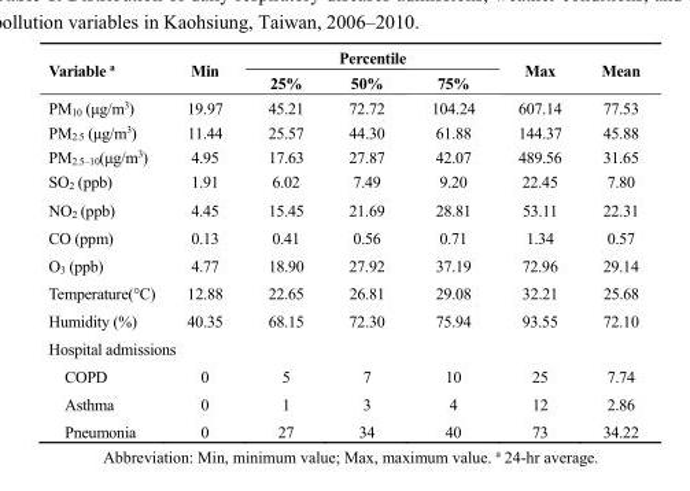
<table><thead><tr><td rowspan="2">Variable <sup>a</sup></td><td rowspan="2">Min</td><td colspan="3">Percentile</td><td rowspan="2">Max</td><td rowspan="2">Mean</td></tr><tr><td>25%</td><td>50%</td><td>75%</td></tr></thead><tbody><tr><td>PM<sub>10</sub> (μg/m<sup>3</sup>)</td><td>19.97</td><td>45.21</td><td>72.72</td><td>104.24</td><td>607.14</td><td>77.53</td></tr><tr><td>PM<sub>2.5</sub> (μg/m<sup>3</sup>)</td><td>11.44</td><td>25.57</td><td>44.30</td><td>61.88</td><td>144.37</td><td>45.88</td></tr><tr><td>PM<sub>2.5–10</sub>(μg/m<sup>3</sup>)</td><td>4.95</td><td>17.63</td><td>27.87</td><td>42.07</td><td>489.56</td><td>31.65</td></tr><tr><td>SO<sub>2</sub> (ppb)</td><td>1.91</td><td>6.02</td><td>7.49</td><td>9.20</td><td>22.45</td><td>7.80</td></tr><tr><td>NO<sub>2</sub> (ppb)</td><td>4.45</td><td>15.45</td><td>21.69</td><td>28.81</td><td>53.11</td><td>22.31</td></tr><tr><td>CO (ppm)</td><td>0.13</td><td>0.41</td><td>0.56</td><td>0.71</td><td>1.34</td><td>0.57</td></tr><tr><td>O<sub>3</sub> (ppb)</td><td>4.77</td><td>18.90</td><td>27.92</td><td>37.19</td><td>72.96</td><td>29.14</td></tr><tr><td>Temperature(°C)</td><td>12.88</td><td>22.65</td><td>26.81</td><td>29.08</td><td>32.21</td><td>25.68</td></tr><tr><td>Humidity (%)</td><td>40.35</td><td>68.15</td><td>72.30</td><td>75.94</td><td>93.55</td><td>72.10</td></tr><tr><td colspan="7">Hospital admissions</td></tr><tr><td>COPD</td><td>0</td><td>5</td><td>7</td><td>10</td><td>25</td><td>7.74</td></tr><tr><td>Asthma</td><td>0</td><td>1</td><td>3</td><td>4</td><td>12</td><td>2.86</td></tr><tr><td>Pneumonia</td><td>0</td><td>27</td><td>34</td><td>40</td><td>73</td><td>34.22</td></tr></tbody></table>